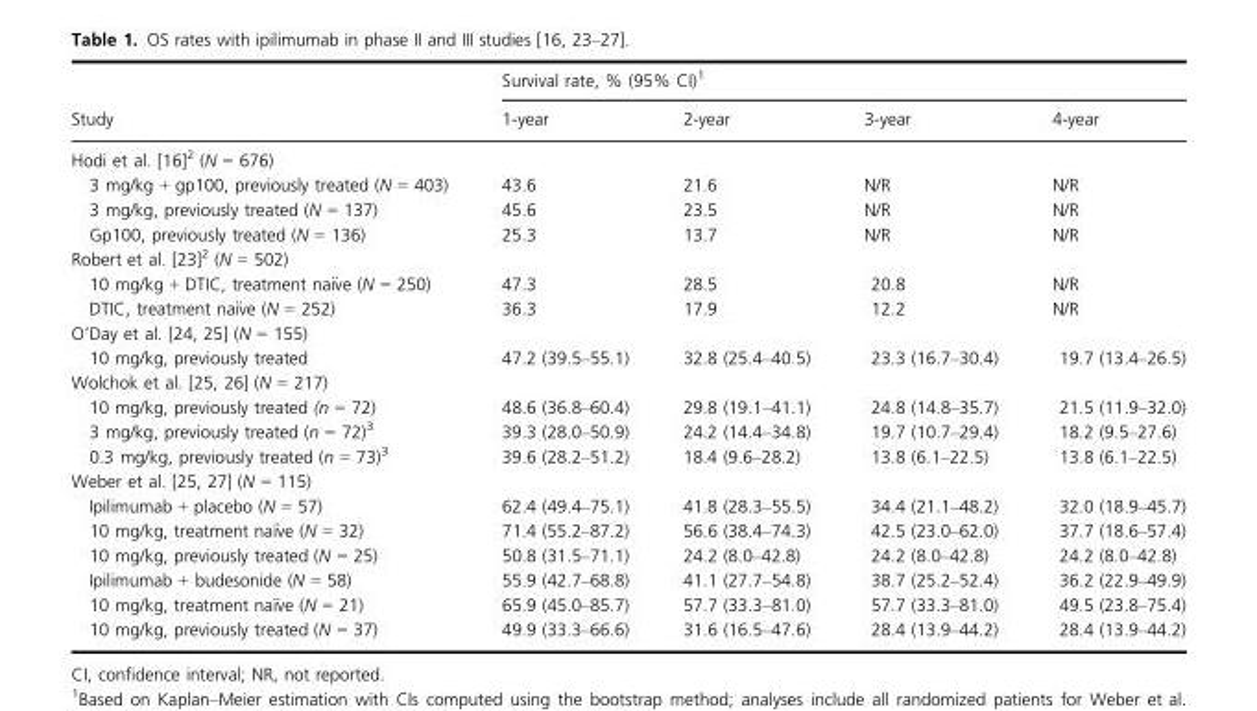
<table><thead><tr><td rowspan="2">Study</td><td colspan="4">Survival rate, % (95% CI)<sup>1</sup></td></tr><tr><td>1-year</td><td>2-year</td><td>3-year</td><td>4-year</td></tr></thead><tbody><tr><td colspan="5">Hodi et al. [16]2 (N = 676)</td></tr><tr><td>3 mg/kg + gp100, previously treated (N = 403)</td><td>43.6</td><td>21.6</td><td>N/R</td><td>N/R</td></tr><tr><td>3 mg/kg, previously treated (N = 137)</td><td>45.6</td><td>23.5</td><td>N/R</td><td>N/R</td></tr><tr><td>Gp100, previously treated (N = 136)</td><td>25.3</td><td>13.7</td><td>N/R</td><td>N/R</td></tr><tr><td colspan="5">Robert et al. [23]2 (N = 502)</td></tr><tr><td>10 mg/kg + DTIC, treatment na€ıve (N = 250)</td><td>47.3</td><td>28.5</td><td>20.8</td><td>N/R</td></tr><tr><td>DTIC, treatment na€ıve (N = 252)</td><td>36.3</td><td>17.9</td><td>12.2</td><td>N/R</td></tr><tr><td colspan="5">O’Day et al. [24, 25] (N = 155)</td></tr><tr><td>10 mg/kg, previously treated</td><td>47.2 (39.5–55.1)</td><td>32.8 (25.4–40.5)</td><td>23.3 (16.7–30.4)</td><td>19.7 (13.4–26.5)</td></tr><tr><td colspan="5">Wolchok et al. [25, 26] (N = 217)</td></tr><tr><td>10 mg/kg, previously treated (n = 72)</td><td>48.6 (36.8–60.4)</td><td>29.8 (19.1–41.1)</td><td>24.8 (14.8–35.7)</td><td>21.5 (11.9–32.0)</td></tr><tr><td>3 mg/kg, previously treated (n = 72)<sup>3</sup></td><td>39.3 (28.0–50.9)</td><td>24.2 (14.4–34.8)</td><td>19.7 (10.7–29.4)</td><td>18.2 (9.5–27.6)</td></tr><tr><td>0.3 mg/kg, previously treated (n = 73)<sup>3</sup></td><td>39.6 (28.2–51.2)</td><td>18.4 (9.6–28.2)</td><td>13.8 (6.1–22.5)</td><td>13.8 (6.1–22.5)</td></tr><tr><td colspan="5">Weber et al. [25, 27] (N = 115)</td></tr><tr><td>Ipilimumab + placebo (N = 57)</td><td>62.4 (49.4–75.1)</td><td>41.8 (28.3–55.5)</td><td>34.4 (21.1–48.2)</td><td>32.0 (18.9–45.7)</td></tr><tr><td>10 mg/kg, treatment na€ıve (N = 32)</td><td>71.4 (55.2–87.2)</td><td>56.6 (38.4–74.3)</td><td>42.5 (23.0–62.0)</td><td>37.7 (18.6–57.4)</td></tr><tr><td>10 mg/kg, previously treated (N = 25)</td><td>50.8 (31.5–71.1)</td><td>24.2 (8.0–42.8)</td><td>24.2 (8.0–42.8)</td><td>24.2 (8.0–42.8)</td></tr><tr><td>Ipilimumab + budesonide (N = 58)</td><td>55.9 (42.7–68.8)</td><td>41.1 (27.7–54.8)</td><td>38.7 (25.2–52.4)</td><td>36.2 (22.9–49.9)</td></tr><tr><td>10 mg/kg, treatment na€ıve (N = 21)</td><td>65.9 (45.0–85.7)</td><td>57.7 (33.3–81.0)</td><td>57.7 (33.3–81.0)</td><td>49.5 (23.8–75.4)</td></tr><tr><td>10 mg/kg, previously treated (N = 37)</td><td>49.9 (33.3–66.6)</td><td>31.6 (16.5–47.6)</td><td>28.4 (13.9–44.2)</td><td>28.4 (13.9–44.2)</td></tr></tbody></table>